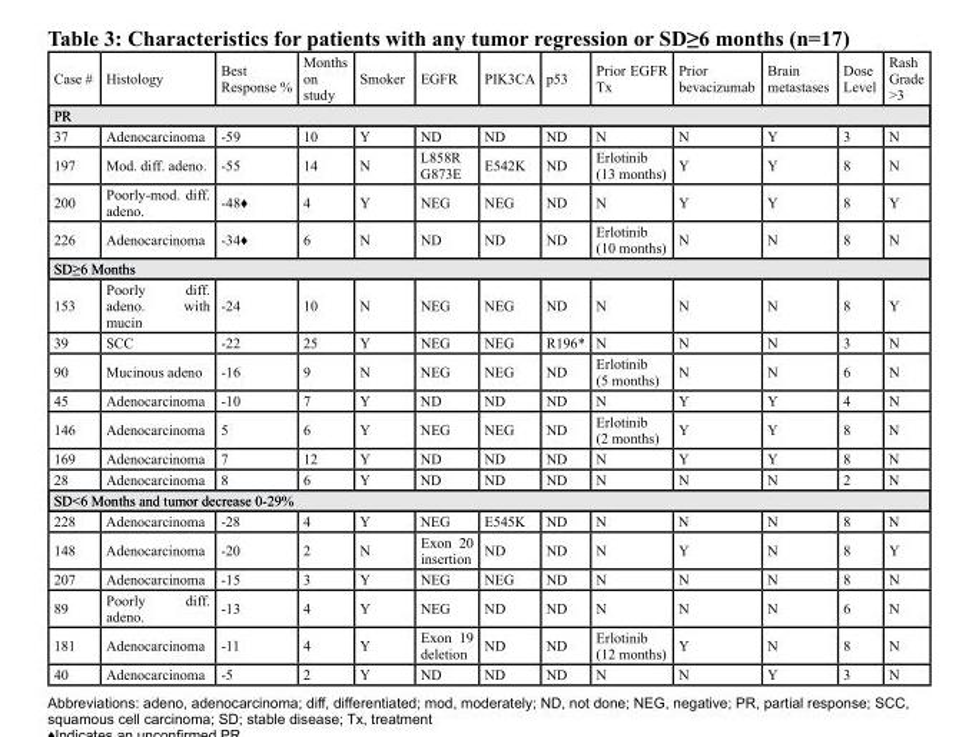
<table><thead><tr><td>Case #</td><td>Histology</td><td>Best Response %</td><td>Months on study</td><td>Smoker</td><td>EGFR</td><td>PIK3CA</td><td>p53</td><td>Prior EGFR Tx</td><td>Prior bevacizumab</td><td>Brain metastases</td><td>Dose Level</td><td>Rash Grade &gt;3</td></tr></thead><tbody><tr><td colspan="13">PR</td></tr><tr><td>37</td><td>Adenocarcinoma</td><td>-59</td><td>10</td><td>Y</td><td>ND</td><td>ND</td><td>ND</td><td>N</td><td>N</td><td>Y</td><td>3</td><td>N</td></tr><tr><td>197</td><td>Mod. diff. adeno.</td><td>-55</td><td>14</td><td>N</td><td>L858R G873E</td><td>E542K</td><td>ND</td><td>Erlotinib (13 months)</td><td>Y</td><td>Y</td><td>8</td><td>N</td></tr><tr><td>200</td><td>Poorly-mod. diff. adeno.</td><td>-48♦</td><td>4</td><td>Y</td><td>NEG</td><td>NEG</td><td>ND</td><td>N</td><td>Y</td><td>Y</td><td>8</td><td>Y</td></tr><tr><td>226</td><td>Adenocarcinoma</td><td>-34♦</td><td>6</td><td>N</td><td>ND</td><td>ND</td><td>ND</td><td>Erlotinib (10 months)</td><td>N</td><td>N</td><td>8</td><td>N</td></tr><tr><td colspan="13">SD≥6 Months</td></tr><tr><td>153</td><td>Poorly diff. adeno. with mucin</td><td>-24</td><td>10</td><td>N</td><td>NEG</td><td>NEG</td><td>ND</td><td>N</td><td>N</td><td>N</td><td>8</td><td>Y</td></tr><tr><td>39</td><td>SCC</td><td>-22</td><td>25</td><td>Y</td><td>NEG</td><td>NEG</td><td>R196*</td><td>N</td><td>N</td><td>N</td><td>3</td><td>N</td></tr><tr><td>90</td><td>Mucinous adeno</td><td>-16</td><td>9</td><td>N</td><td>NEG</td><td>NEG</td><td>ND</td><td>Erlotinib (5 months)</td><td>N</td><td>N</td><td>6</td><td>N</td></tr><tr><td>45</td><td>Adenocarcinoma</td><td>-10</td><td>7</td><td>Y</td><td>ND</td><td>ND</td><td>ND</td><td>N</td><td>Y</td><td>Y</td><td>4</td><td>N</td></tr><tr><td>146</td><td>Adenocarcinoma</td><td>5</td><td>6</td><td>Y</td><td>NEG</td><td>NEG</td><td>ND</td><td>Erlotinib (2 months)</td><td>Y</td><td>Y</td><td>8</td><td>N</td></tr><tr><td>169</td><td>Adenocarcinoma</td><td>7</td><td>12</td><td>Y</td><td>ND</td><td>ND</td><td>ND</td><td>N</td><td>Y</td><td>Y</td><td>8</td><td>N</td></tr><tr><td>28</td><td>Adenocarcinoma</td><td>8</td><td>6</td><td>Y</td><td>ND</td><td>ND</td><td>ND</td><td>N</td><td>N</td><td>N</td><td>2</td><td>N</td></tr><tr><td colspan="13">SD&lt;6 Months and tumor decrease 0-29%</td></tr><tr><td>228</td><td>Adenocarcinoma</td><td>-28</td><td>4</td><td>Y</td><td>NEG</td><td>E545K</td><td>ND</td><td>N</td><td>N</td><td>N</td><td>8</td><td>N</td></tr><tr><td>148</td><td>Adenocarcinoma</td><td>-20</td><td>2</td><td>N</td><td>Exon 20 insertion</td><td>ND</td><td>ND</td><td>N</td><td>Y</td><td>N</td><td>8</td><td>Y</td></tr><tr><td>207</td><td>Adenocarcinoma</td><td>-15</td><td>3</td><td>Y</td><td>NEG</td><td>NEG</td><td>ND</td><td>N</td><td>N</td><td>N</td><td>8</td><td>N</td></tr><tr><td>89</td><td>Poorly diff. adeno.</td><td>-13</td><td>4</td><td>Y</td><td>NEG</td><td>ND</td><td>ND</td><td>N</td><td>N</td><td>N</td><td>6</td><td>N</td></tr><tr><td>181</td><td>Adenocarcinoma</td><td>-11</td><td>4</td><td>Y</td><td>Exon 19 deletion</td><td>ND</td><td>ND</td><td>Erlotinib (12 months)</td><td>Y</td><td>N</td><td>8</td><td>N</td></tr><tr><td>40</td><td>Adenocarcinoma</td><td>-5</td><td>2</td><td>Y</td><td>ND</td><td>ND</td><td>ND</td><td>N</td><td>N</td><td>Y</td><td>3</td><td>N</td></tr></tbody></table>